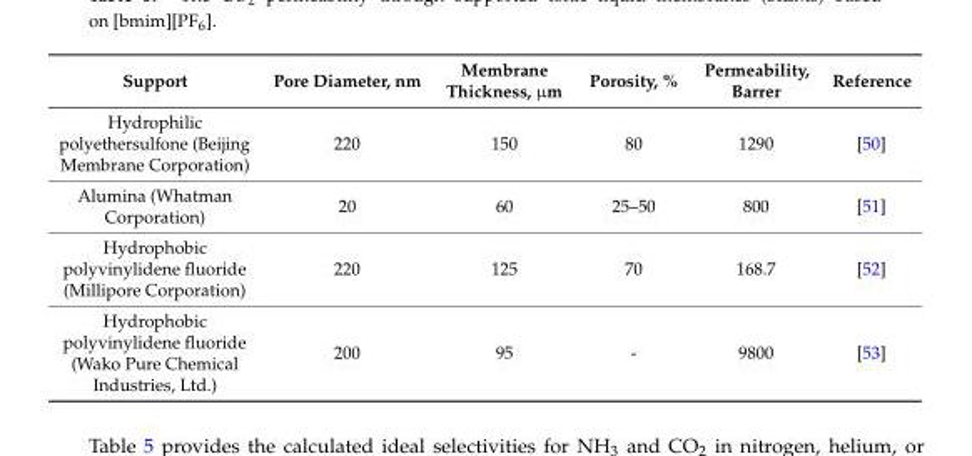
<table><thead><tr><td>Support</td><td>Pore Diameter, nm</td><td>Membrane Thickness, µm</td><td>Porosity, %</td><td>Permeability, Barrer</td><td>Reference</td></tr></thead><tbody><tr><td>Hydrophilic polyethersulfone (Beijing Membrane Corporation)</td><td>220</td><td>150</td><td>80</td><td>1290</td><td>[50]</td></tr><tr><td>Alumina (Whatman Corporation)</td><td>20</td><td>60</td><td>25–50</td><td>800</td><td>[51]</td></tr><tr><td>Hydrophobic polyvinylidene fluoride (Millipore Corporation)</td><td>220</td><td>125</td><td>70</td><td>168.7</td><td>[52]</td></tr><tr><td>Hydrophobic polyvinylidene fluoride (Wako Pure Chemical Industries, Ltd.)</td><td>200</td><td>95</td><td>-</td><td>9800</td><td>[53]</td></tr></tbody></table>